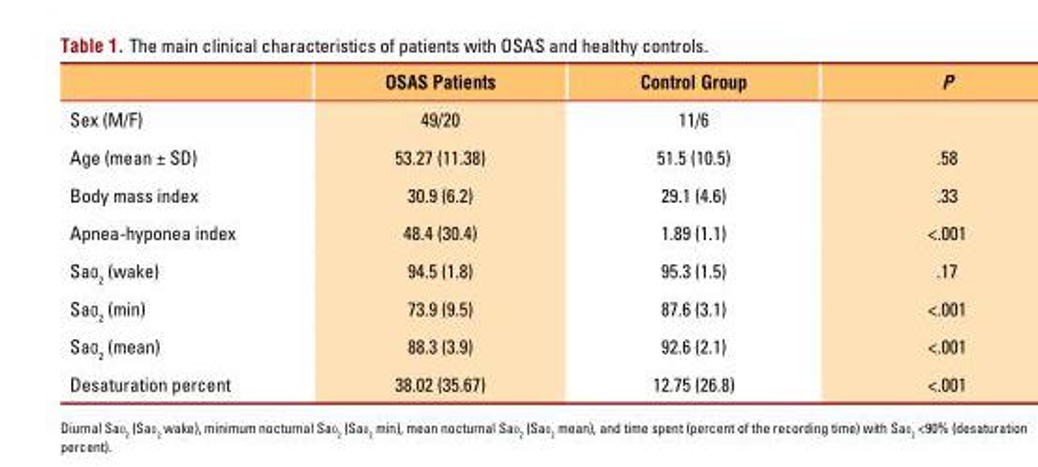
<table><thead><tr><td></td><td>OSAS Patients</td><td>Control Group</td><td>P</td></tr></thead><tbody><tr><td>Sex (M/F)</td><td>49/20</td><td>11/6</td><td></td></tr><tr><td>Age (mean ± SD)</td><td>53.27 (11.38)</td><td>51.5 (10.5)</td><td>.58</td></tr><tr><td>Body mass index</td><td>30.9 (6.2)</td><td>29.1 (4.6)</td><td>.33</td></tr><tr><td>Apnea-hyponea index</td><td>48.4 (30.4)</td><td>1.89 (1.1)</td><td>&lt;.001</td></tr><tr><td>SaO<sub>2</sub> (wake)</td><td>94.5 (1.8)</td><td>95.3 (1.5)</td><td>.17</td></tr><tr><td>SaO<sub>2</sub> (min)</td><td>73.9 (9.5)</td><td>87.6 (3.1)</td><td>&lt;.001</td></tr><tr><td>SaO<sub>2</sub> (mean)</td><td>88.3 (3.9)</td><td>92.6 (2.1)</td><td>&lt;.001</td></tr><tr><td>Desaturation percent</td><td>38.02 (35.67)</td><td>12.75 (26.8)</td><td>&lt;.001</td></tr></tbody></table>